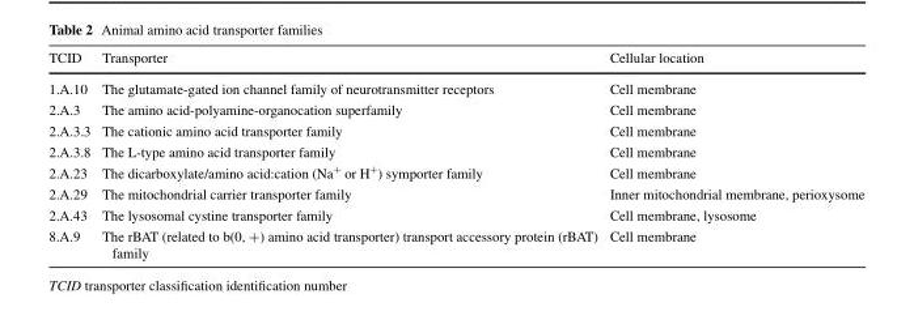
<table><thead><tr><td>TCID</td><td>Transporter</td><td>Cellular location</td></tr></thead><tbody><tr><td>1.A.10</td><td>The glutamate-gated ion channel family of neurotransmitter receptors</td><td>Cell membrane</td></tr><tr><td>2.A.3</td><td>The amino acid-polyamine-organocation superfamily</td><td>Cell membrane</td></tr><tr><td>2.A.3.3</td><td>The cationic amino acid transporter family</td><td>Cell membrane</td></tr><tr><td>2.A.3.8</td><td>The L-type amino acid transporter family</td><td>Cell membrane</td></tr><tr><td>2.A.23</td><td>The dicarboxylate/amino acid:cation (Na<sup>+</sup> or H<sup>+</sup>) symporter family</td><td>Cell membrane</td></tr><tr><td>2.A.29</td><td>The mitochondrial carrier transporter family</td><td>Inner mitochondrial membrane, perioxysome</td></tr><tr><td>2.A.43</td><td>The lysosomal cystine transporter family</td><td>Cell membrane, lysosome</td></tr><tr><td>8.A.9</td><td>The rBAT (related to b(0, +) amino acid transporter) transport accessory protein (rBAT) family</td><td>Cell membrane</td></tr></tbody></table>